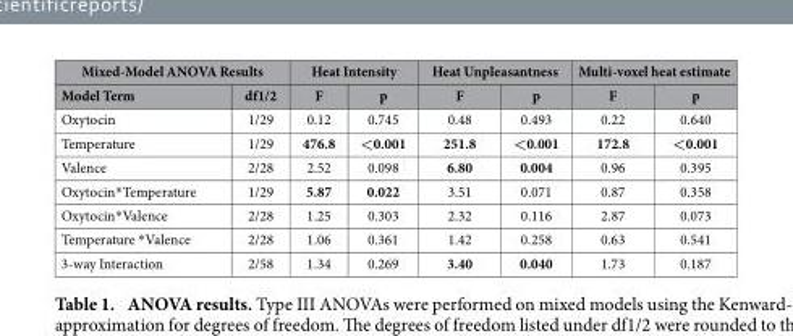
<table><thead><tr><td colspan="2">Mixed-Model ANOVA Results</td><td colspan="2">Heat Intensity</td><td colspan="2">Heat Unpleasantness</td><td colspan="2">Multi-voxel heat estimate</td></tr><tr><td>Model Term</td><td>df1/2</td><td>F</td><td>p</td><td>F</td><td>p</td><td>F</td><td>p</td></tr></thead><tbody><tr><td>Oxytocin</td><td>1/29</td><td>0.12</td><td>0.745</td><td>0.48</td><td>0.493</td><td>0.22</td><td>0.640</td></tr><tr><td>Temperature</td><td>1/29</td><td>476.8</td><td>&lt; 0.001</td><td>251.8</td><td>&lt; 0.001</td><td>172.8</td><td>&lt; 0.001</td></tr><tr><td>Valence</td><td>2/28</td><td>2.52</td><td>0.098</td><td>6.80</td><td>0.004</td><td>0.96</td><td>0.395</td></tr><tr><td>Oxytocin* Temperature</td><td>1/29</td><td>5.87</td><td>0.022</td><td>3.51</td><td>0.071</td><td>0.87</td><td>0.358</td></tr><tr><td>Oxytocin* Valence</td><td>2/28</td><td>1.25</td><td>0.303</td><td>2.32</td><td>0.116</td><td>2.87</td><td>0.073</td></tr><tr><td>Temperature * Valence</td><td>2/28</td><td>1.06</td><td>0.361</td><td>1.42</td><td>0.258</td><td>0.63</td><td>0.541</td></tr><tr><td>3-way Interaction</td><td>2/58</td><td>1.34</td><td>0.269</td><td>3.40</td><td>0.040</td><td>1.73</td><td>0.187</td></tr></tbody></table>